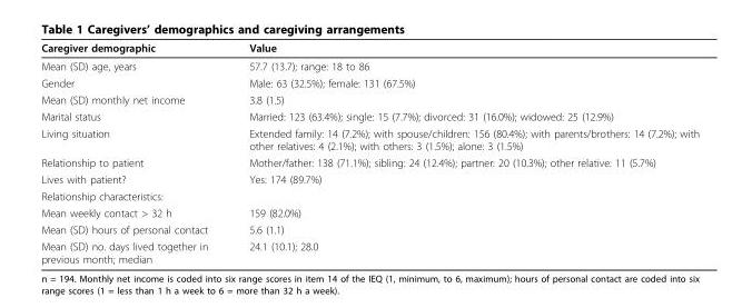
<table><thead><tr><td>Caregiver demographic</td><td>Value</td></tr></thead><tbody><tr><td>Mean (SD) age, years</td><td>57.7 (13.7); range: 18 to 86</td></tr><tr><td>Gender</td><td>Male: 63 (32.5%); female: 131 (67.5%)</td></tr><tr><td>Mean (SD) monthly net income</td><td>3.8 (1.5)</td></tr><tr><td>Marital status</td><td>Married: 123 (63.4%); single: 15 (7.7%); divorced: 31 (16.0%); widowed: 25 (12.9%)</td></tr><tr><td>Living situation</td><td>Extended family: 14 (7.2%); with spouse/children: 156 (80.4%); with parents/brothers: 14 (7.2%); with other relatives: 4 (2.1%); with others: 3 (1.5%); alone: 3 (1.5%)</td></tr><tr><td>Relationship to patient</td><td>Mother/father: 138 (71.1%); sibling: 24 (12.4%); partner: 20 (10.3%); other relative: 11 (5.7%)</td></tr><tr><td>Lives with patient?</td><td>Yes: 174 (89.7%)</td></tr><tr><td colspan="2">Relationship characteristics:</td></tr><tr><td>Mean weekly contact &gt; 32 h</td><td>159 (82.0%)</td></tr><tr><td>Mean (SD) hours of personal contact</td><td>5.6 (1.1)</td></tr><tr><td>Mean (SD) no. days lived together in previous month; median</td><td>24.1 (10.1); 28.0</td></tr></tbody></table>